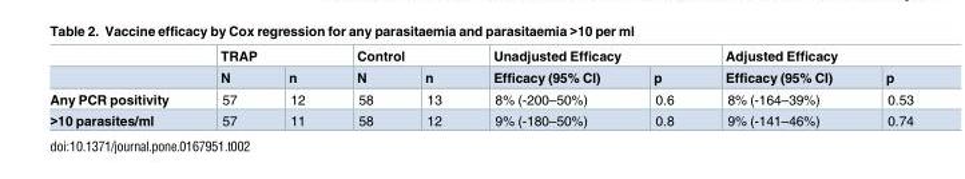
<table><thead><tr><td rowspan="2"></td><td colspan="2">TRAP</td><td colspan="2">Control</td><td colspan="2">Unadjusted Efficacy</td><td colspan="2">Adjusted Efficacy</td></tr><tr><td>N</td><td>n</td><td>N</td><td>n</td><td>Efficacy (95% CI)</td><td>p</td><td>Efficacy (95% CI)</td><td>p</td></tr></thead><tbody><tr><td>Any PCR positivity</td><td>57</td><td>12</td><td>58</td><td>13</td><td>8% (-200–50%)</td><td>0.6</td><td>8% (-164–39%)</td><td>0.53</td></tr><tr><td>&gt;10 parasites/ml</td><td>57</td><td>11</td><td>58</td><td>12</td><td>9% (-180–50%)</td><td>0.8</td><td>9% (-141–46%)</td><td>0.74</td></tr></tbody></table>